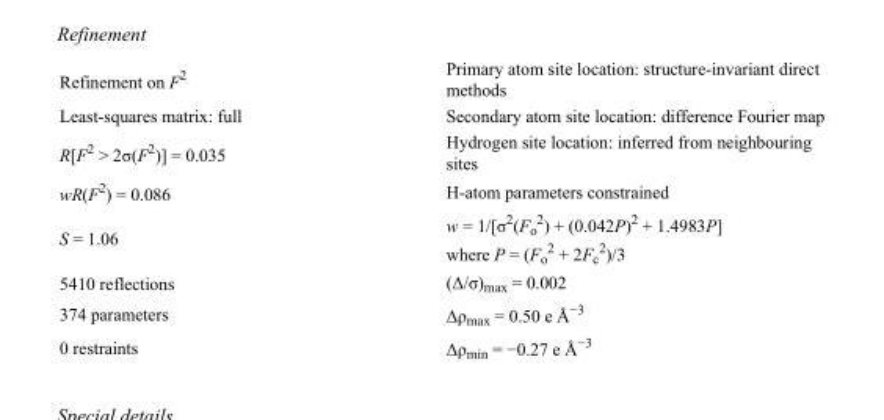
<table><tbody><tr><td>Refinement on F<sup>2</sup></td><td>Primary atom site location: structure-invariant direct methods</td></tr><tr><td>Least-squares matrix: full</td><td>Secondary atom site location: difference Fourier map</td></tr><tr><td>R[F<sup>2</sup> &gt; 2σ(F<sup>2</sup>)] = 0.035</td><td>Hydrogen site location: inferred from neighbouring sites</td></tr><tr><td>wR(F<sup>2</sup>) = 0.086</td><td>H-atom parameters constrained</td></tr><tr><td>S = 1.06</td><td>w = 1/[σ<sup>2</sup>(F<sub>o</sub> <sup>2</sup>) + (0.042P)<sup>2</sup> + 1.4983P] where P = (F<sub>o</sub> <sup>2</sup> + 2F<sub>c</sub> <sup>2</sup>)/3</td></tr><tr><td>5410 reflections</td><td>(Δ/σ)<sub>max</sub> = 0.002</td></tr><tr><td>374 parameters</td><td>Δρ<sub>max</sub> = 0.50 e Å<sup>−3</sup></td></tr><tr><td>0 restraints</td><td>Δρ<sub>min</sub> = −0.27 e Å<sup>−3</sup></td></tr></tbody></table>